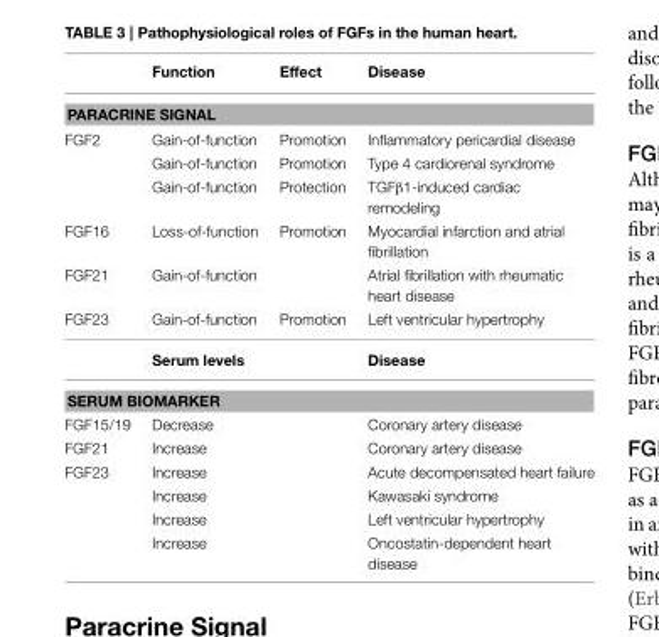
<table><thead><tr><td></td><td>Function</td><td>Effect</td><td>Disease</td></tr></thead><tbody><tr><td colspan="4">PARACRINE SIGNAL</td></tr><tr><td rowspan="3">FGF2</td><td>Gain-of-function</td><td>Promotion</td><td>Inflammatory pericardial disease</td></tr><tr><td>Gain-of-function</td><td>Promotion</td><td>Type 4 cardiorenal syndrome</td></tr><tr><td>Gain-of-function</td><td>Protection</td><td>TGFβ1-induced cardiac remodeling</td></tr><tr><td>FGF16</td><td>Loss-of-function</td><td>Promotion</td><td>Myocardial infarction and atrial fibrillation</td></tr><tr><td>FGF21</td><td>Gain-of-function</td><td></td><td>Atrial fibrillation with rheumatic heart disease</td></tr><tr><td rowspan="2">FGF23</td><td>Gain-of-function</td><td>Promotion</td><td>Left ventricular hypertrophy</td></tr><tr><td>Serum levels</td><td></td><td>Disease</td></tr><tr><td colspan="4">SERUM BIOMARKER</td></tr><tr><td>FGF15/19</td><td>Decrease</td><td></td><td>Coronary artery disease</td></tr><tr><td>FGF21</td><td>Increase</td><td></td><td>Coronary artery disease</td></tr><tr><td rowspan="4">FGF23</td><td>Increase</td><td></td><td>Acute decompensated heart failure</td></tr><tr><td>Increase</td><td></td><td>Kawasaki syndrome</td></tr><tr><td>Increase</td><td></td><td>Left ventricular hypertrophy</td></tr><tr><td>Increase</td><td></td><td>Oncostatin-dependent heart disease</td></tr></tbody></table>